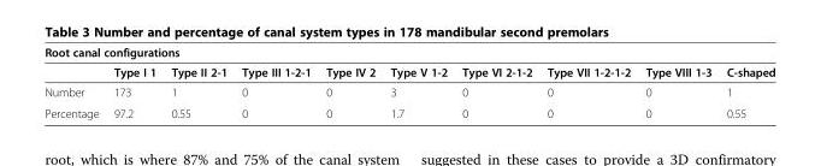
<table><thead><tr><td colspan="10">Root canal configurations</td></tr><tr><td></td><td>Type I 1</td><td>Type II 2-1</td><td>Type III 1-2-1</td><td>Type IV 2</td><td>Type V 1-2</td><td>Type VI 2-1-2</td><td>Type VII 1-2-1-2</td><td>Type VIII 1-3</td><td>C-shaped</td></tr></thead><tbody><tr><td>Number</td><td>173</td><td>1</td><td>0</td><td>0</td><td>3</td><td>0</td><td>0</td><td>0</td><td>1</td></tr><tr><td>Percentage</td><td>97.2</td><td>0.55</td><td>0</td><td>0</td><td>1.7</td><td>0</td><td>0</td><td>0</td><td>0.55</td></tr></tbody></table>